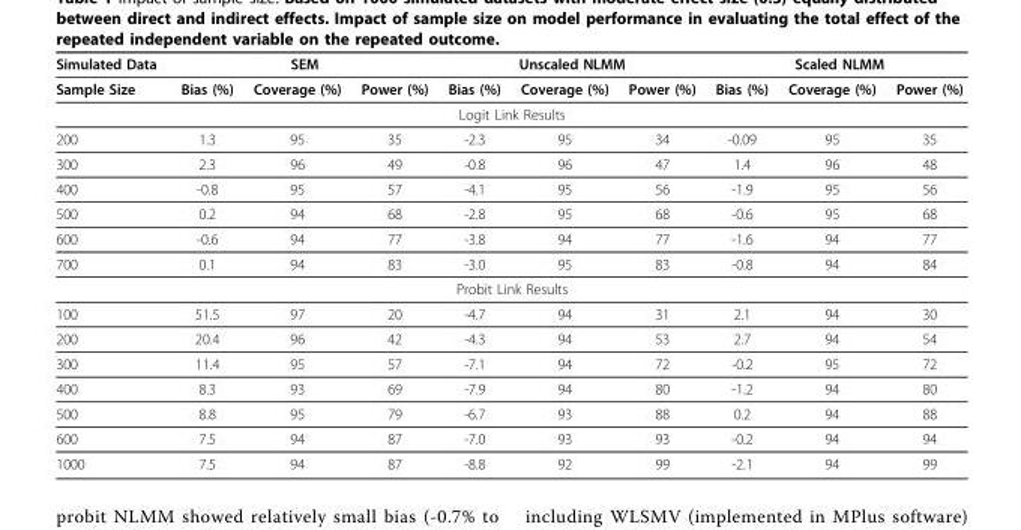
<table><thead><tr><td rowspan="2">Simulated Data Sample Size</td><td colspan="3">SEM</td><td colspan="3">Unscaled NLMM</td><td colspan="3">Scaled NLMM</td></tr><tr><td>Bias (%)</td><td>Coverage (%)</td><td>Power (%)</td><td>Bias (%)</td><td>Coverage (%)</td><td>Power (%)</td><td>Bias (%)</td><td>Coverage (%)</td><td>Power (%)</td></tr></thead><tbody><tr><td colspan="10">Logit Link Results</td></tr><tr><td>200</td><td>1.3</td><td>95</td><td>35</td><td>-2.3</td><td>95</td><td>34</td><td>-0.09</td><td>95</td><td>35</td></tr><tr><td>300</td><td>2.3</td><td>96</td><td>49</td><td>-0.8</td><td>96</td><td>47</td><td>1.4</td><td>96</td><td>48</td></tr><tr><td>400</td><td>-0.8</td><td>95</td><td>57</td><td>-4.1</td><td>95</td><td>56</td><td>-1.9</td><td>95</td><td>56</td></tr><tr><td>500</td><td>0.2</td><td>94</td><td>68</td><td>-2.8</td><td>95</td><td>68</td><td>-0.6</td><td>95</td><td>68</td></tr><tr><td>600</td><td>-0.6</td><td>94</td><td>77</td><td>-3.8</td><td>94</td><td>77</td><td>-1.6</td><td>94</td><td>77</td></tr><tr><td>700</td><td>0.1</td><td>94</td><td>83</td><td>-3.0</td><td>95</td><td>83</td><td>-0.8</td><td>94</td><td>84</td></tr><tr><td colspan="10">Probit Link Results</td></tr><tr><td>100</td><td>51.5</td><td>97</td><td>20</td><td>-4.7</td><td>94</td><td>31</td><td>2.1</td><td>94</td><td>30</td></tr><tr><td>200</td><td>20.4</td><td>96</td><td>42</td><td>-4.3</td><td>94</td><td>53</td><td>2.7</td><td>94</td><td>54</td></tr><tr><td>300</td><td>11.4</td><td>95</td><td>57</td><td>-7.1</td><td>94</td><td>72</td><td>-0.2</td><td>95</td><td>72</td></tr><tr><td>400</td><td>8.3</td><td>93</td><td>69</td><td>-7.9</td><td>94</td><td>80</td><td>-1.2</td><td>94</td><td>80</td></tr><tr><td>500</td><td>8.8</td><td>95</td><td>79</td><td>-6.7</td><td>93</td><td>88</td><td>0.2</td><td>94</td><td>88</td></tr><tr><td>600</td><td>7.5</td><td>94</td><td>87</td><td>-7.0</td><td>93</td><td>93</td><td>-0.2</td><td>94</td><td>94</td></tr><tr><td>1000</td><td>7.5</td><td>94</td><td>87</td><td>-8.8</td><td>92</td><td>99</td><td>-2.1</td><td>94</td><td>99</td></tr></tbody></table>